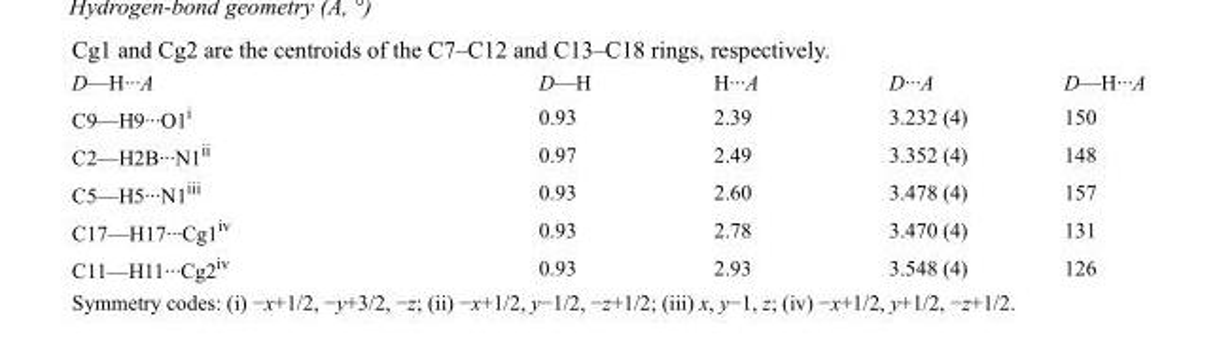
<table><tbody><tr><td>D—H···A</td><td>D—H</td><td>H···A</td><td>D···A</td><td>D—H···A</td></tr><tr><td>C9—H9···O1<sup>i</sup></td><td>0.93</td><td>2.39</td><td>3.232 (4)</td><td>150</td></tr><tr><td>C2—H2B···N1<sup>ii</sup></td><td>0.97</td><td>2.49</td><td>3.352 (4)</td><td>148</td></tr><tr><td>C5—H5···N1<sup>iii</sup></td><td>0.93</td><td>2.60</td><td>3.478 (4)</td><td>157</td></tr><tr><td>C17—H17···Cg1<sup>iv</sup></td><td>0.93</td><td>2.78</td><td>3.470 (4)</td><td>131</td></tr><tr><td>C11—H11···Cg2<sup>iv</sup></td><td>0.93</td><td>2.93</td><td>3.548 (4)</td><td>126</td></tr></tbody></table>